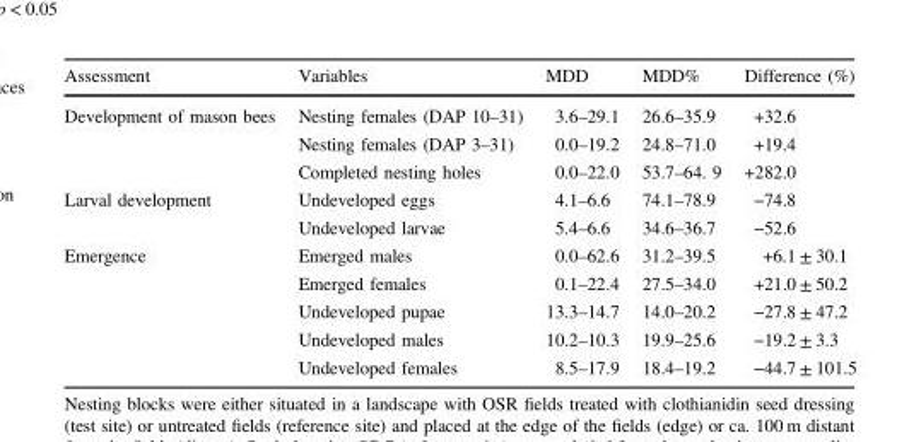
<table><thead><tr><td>Assessment</td><td>Variables</td><td>MDD</td><td>MDD%</td><td>Difference (%)</td></tr></thead><tbody><tr><td rowspan="3">Development of mason bees</td><td>Nesting females (DAP 10–31)</td><td>3.6–29.1</td><td>26.6–35.9</td><td>+32.6</td></tr><tr><td>Nesting females (DAP 3–31)</td><td>0.0–19.2</td><td>24.8–71.0</td><td>+19.4</td></tr><tr><td>Completed nesting holes</td><td>0.0–22.0</td><td>53.7–64. 9</td><td>+282.0</td></tr><tr><td rowspan="2">Larval development</td><td>Undeveloped eggs</td><td>4.1–6.6</td><td>74.1–78.9</td><td>−74.8</td></tr><tr><td>Undeveloped larvae</td><td>5.4–6.6</td><td>34.6–36.7</td><td>−52.6</td></tr><tr><td rowspan="5">Emergence</td><td>Emerged males</td><td>0.0–62.6</td><td>31.2–39.5</td><td>+6.1 ± 30.1</td></tr><tr><td>Emerged females</td><td>0.1–22.4</td><td>27.5–34.0</td><td>+21.0 ± 50.2</td></tr><tr><td>Undeveloped pupae</td><td>13.3–14.7</td><td>14.0–20.2</td><td>−27.8 ± 47.2</td></tr><tr><td>Undeveloped males</td><td>10.2–10.3</td><td>19.9–25.6</td><td>−19.2 ± 3.3</td></tr><tr><td>Undeveloped females</td><td>8.5–17.9</td><td>18.4–19.2</td><td>−44.7 ± 101.5</td></tr></tbody></table>